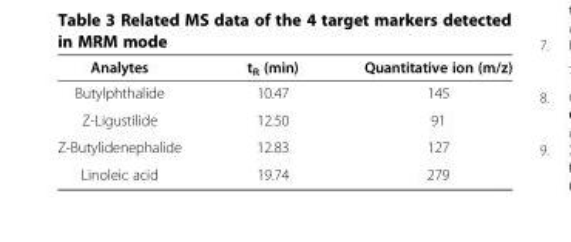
<table><thead><tr><td>Analytes</td><td>t<sub>R</sub> (min)</td><td>Quantitative ion (m/z)</td></tr></thead><tbody><tr><td>Butylphthalide</td><td>10.47</td><td>145</td></tr><tr><td>Z-Ligustilide</td><td>12.50</td><td>91</td></tr><tr><td>Z-Butylidenephalide</td><td>12.83</td><td>127</td></tr><tr><td>Linoleic acid</td><td>19.74</td><td>279</td></tr></tbody></table>